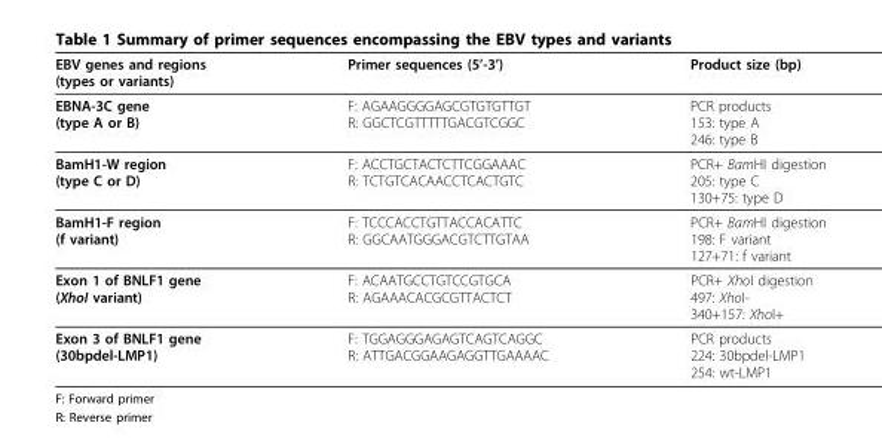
<table><thead><tr><td>EBV genes and regions (types or variants)</td><td>Primer sequences (5’-3’)</td><td>Product size (bp)</td></tr></thead><tbody><tr><td>EBNA-3C gene (type A or B)</td><td>F: AGAAGGGGAGCGTGTGTTGT R: GGCTCGTTTTTGACGTCGGC</td><td>PCR products 153: type A 246: type B</td></tr><tr><td>BamH1-W region (type C or D)</td><td>F: ACCTGCTACTCTTCGGAAAC R: TCTGTCACAACCTCACTGTC</td><td>PCR+ BamHI digestion 205: type C 130+75: type D</td></tr><tr><td>BamH1-F region (f variant)</td><td>F: TCCCACCTGTTACCACATTC R: GGCAATGGGACGTCTTGTAA</td><td>PCR+ BamHI digestion 198: F variant 127+71: f variant</td></tr><tr><td>Exon 1 of BNLF1 gene (XhoI variant)</td><td>F: ACAATGCCTGTCCGTGCA R: AGAAACACGCGTTACTCT</td><td>PCR+ XhoI digestion 497: XhoI- 340+157: XhoI+</td></tr><tr><td>Exon 3 of BNLF1 gene (30bpdel-LMP1)</td><td>F: TGGAGGGAGAGTCAGTCAGGC R: ATTGACGGAAGAGGTTGAAAAC</td><td>PCR products 224: 30bpdel-LMP1 254: wt-LMP1</td></tr></tbody></table>